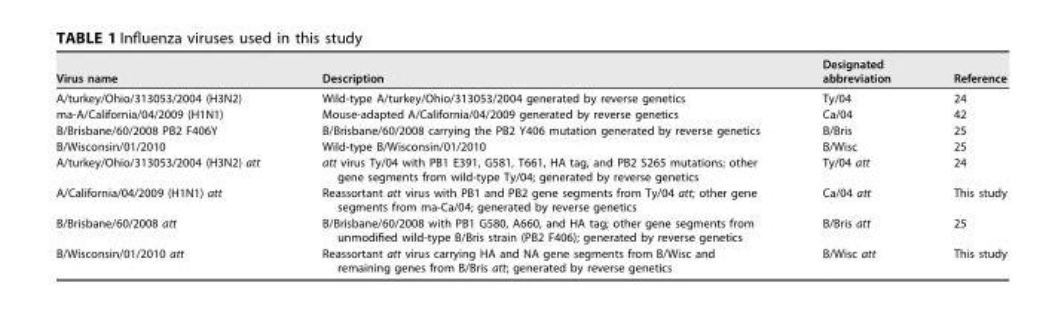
<table><thead><tr><td>Virus name</td><td>Description</td><td>Designated abbreviation</td><td>Reference</td></tr></thead><tbody><tr><td>A/turkey/Ohio/313053/2004 (H3N2)</td><td>Wild-type A/turkey/Ohio/313053/2004 generated by reverse genetics</td><td>Ty/04</td><td>24</td></tr><tr><td>ma-A/California/04/2009 (H1N1)</td><td>Mouse-adapted A/California/04/2009 generated by reverse genetics</td><td>Ca/04</td><td>42</td></tr><tr><td>B/Brisbane/60/2008 PB2 F406Y</td><td>B/Brisbane/60/2008 carrying the PB2 Y406 mutation generated by reverse genetics</td><td>B/Bris</td><td>25</td></tr><tr><td>B/Wisconsin/01/2010</td><td>Wild-type B/Wisconsin/01/2010</td><td>B/Wisc</td><td>25</td></tr><tr><td>A/turkey/Ohio/313053/2004 (H3N2) att</td><td>att virus Ty/04 with PB1 E391, G581, T661, HA tag, and PB2 S265 mutations; other gene segments from wild-type Ty/04; generated by reverse genetics</td><td>Ty/04 att</td><td>24</td></tr><tr><td>A/California/04/2009 (H1N1) att</td><td>Reassortant att virus with PB1 and PB2 gene segments from Ty/04 att; other gene segments from ma-Ca/04; generated by reverse genetics</td><td>Ca/04 att</td><td>This study</td></tr><tr><td>B/Brisbane/60/2008 att</td><td>B/Brisbane/60/2008 with PB1 G580, A660, and HA tag; other gene segments from unmodified wild-type B/Bris strain (PB2 F406); generated by reverse genetics</td><td>B/Bris att</td><td>25</td></tr><tr><td>B/Wisconsin/01/2010 att</td><td>Reassortant att virus carrying HA and NA gene segments from B/Wisc and remaining genes from B/Bris att; generated by reverse genetics</td><td>B/Wisc att</td><td>This study</td></tr></tbody></table>